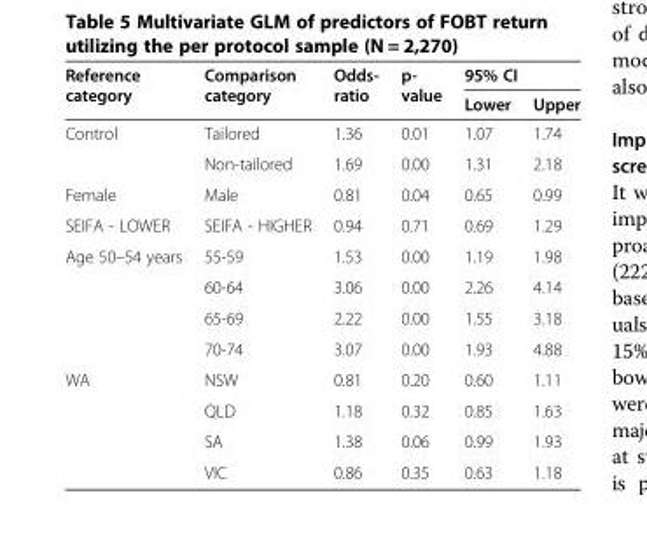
<table><thead><tr><td rowspan="2">Reference category</td><td rowspan="2">Comparison category</td><td rowspan="2">Odds- ratio</td><td rowspan="2">p- value</td><td colspan="2">95% CI</td></tr><tr><td>Lower</td><td>Upper</td></tr></thead><tbody><tr><td rowspan="2">Control</td><td>Tailored</td><td>1.36</td><td>0.01</td><td>1.07</td><td>1.74</td></tr><tr><td>Non-tailored</td><td>1.69</td><td>0.00</td><td>1.31</td><td>2.18</td></tr><tr><td>Female</td><td>Male</td><td>0.81</td><td>0.04</td><td>0.65</td><td>0.99</td></tr><tr><td>SEIFA - LOWER</td><td>SEIFA - HIGHER</td><td>0.94</td><td>0.71</td><td>0.69</td><td>1.29</td></tr><tr><td rowspan="4">Age 50–54 years</td><td>55-59</td><td>1.53</td><td>0.00</td><td>1.19</td><td>1.98</td></tr><tr><td>60-64</td><td>3.06</td><td>0.00</td><td>2.26</td><td>4.14</td></tr><tr><td>65-69</td><td>2.22</td><td>0.00</td><td>1.55</td><td>3.18</td></tr><tr><td>70-74</td><td>3.07</td><td>0.00</td><td>1.93</td><td>4.88</td></tr><tr><td rowspan="4">WA</td><td>NSW</td><td>0.81</td><td>0.20</td><td>0.60</td><td>1.11</td></tr><tr><td>QLD</td><td>1.18</td><td>0.32</td><td>0.85</td><td>1.63</td></tr><tr><td>SA</td><td>1.38</td><td>0.06</td><td>0.99</td><td>1.93</td></tr><tr><td>VIC</td><td>0.86</td><td>0.35</td><td>0.63</td><td>1.18</td></tr></tbody></table>